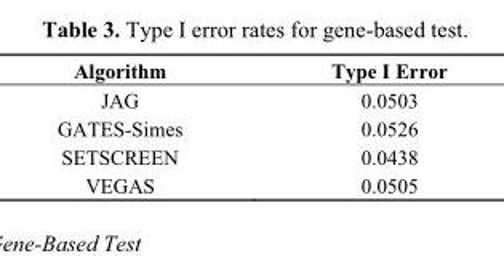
<table><thead><tr><td>Algorithm</td><td>Type I Error</td></tr></thead><tbody><tr><td>JAG</td><td>0.0503</td></tr><tr><td>GATES-Simes</td><td>0.0526</td></tr><tr><td>SETSCREEN</td><td>0.0438</td></tr><tr><td>VEGAS</td><td>0.0505</td></tr></tbody></table>